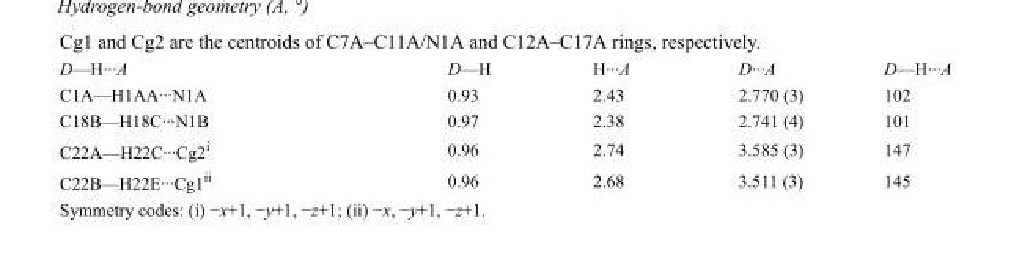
<table><tbody><tr><td>D—H···A</td><td>D—H</td><td>H···A</td><td>D···A</td><td>D—H···A</td></tr><tr><td>C1A—H1AA···N1A</td><td>0.93</td><td>2.43</td><td>2.770 (3)</td><td>102</td></tr><tr><td>C18B—H18C···N1B</td><td>0.97</td><td>2.38</td><td>2.741 (4)</td><td>101</td></tr><tr><td>C22A—H22C···Cg2<sup>i</sup></td><td>0.96</td><td>2.74</td><td>3.585 (3)</td><td>147</td></tr><tr><td>C22B—H22E···Cg1<sup>ii</sup></td><td>0.96</td><td>2.68</td><td>3.511 (3)</td><td>145</td></tr></tbody></table>